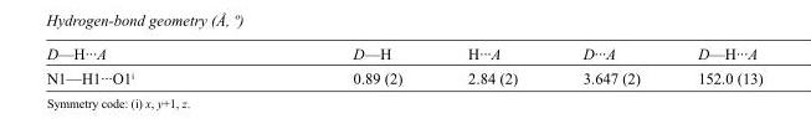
<table><tbody><tr><td>D—H···A</td><td>D—H</td><td>H···A</td><td>D···A</td><td>D—H···A</td></tr><tr><td>N1—H1···O1<sup>i</sup></td><td>0.89 (2)</td><td>2.84 (2)</td><td>3.647 (2)</td><td>152.0 (13)</td></tr></tbody></table>